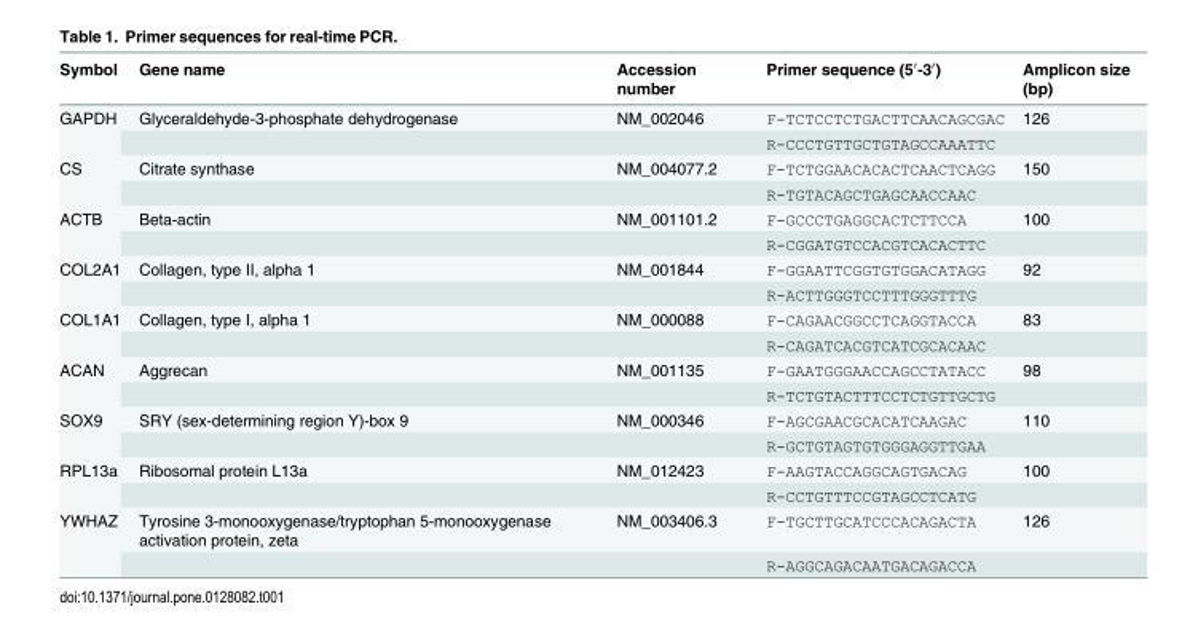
<table><thead><tr><td>Symbol</td><td>Gene name</td><td>Accession number</td><td>Primer sequence (5′-3′)</td><td>Amplicon size (bp)</td></tr></thead><tbody><tr><td rowspan="2">GAPDH</td><td>Glyceraldehyde-3-phosphate dehydrogenase</td><td>NM_002046</td><td>F-TCTCCTCTGACTTCAACAGCGAC</td><td>126</td></tr><tr><td></td><td></td><td>R-CCCTGTTGCTGTAGCCAAATTC</td><td></td></tr><tr><td rowspan="2">CS</td><td>Citrate synthase</td><td>NM_004077.2</td><td>F-TCTGGAACACACTCAACTCAGG</td><td>150</td></tr><tr><td></td><td></td><td>R-TGTACAGCTGAGCAACCAAC</td><td></td></tr><tr><td rowspan="2">ACTB</td><td>Beta-actin</td><td>NM_001101.2</td><td>F-GCCCTGAGGCACTCTTCCA</td><td>100</td></tr><tr><td></td><td></td><td>R-CGGATGTCCACGTCACACTTC</td><td></td></tr><tr><td rowspan="2">COL2A1</td><td>Collagen, type II, alpha 1</td><td>NM_001844</td><td>F-GGAATTCGGTGTGGACATAGG</td><td>92</td></tr><tr><td></td><td></td><td>R-ACTTGGGTCCTTTGGGTTTG</td><td></td></tr><tr><td rowspan="2">COL1A1</td><td>Collagen, type I, alpha 1</td><td>NM_000088</td><td>F-CAGAACGGCCTCAGGTACCA</td><td>83</td></tr><tr><td></td><td></td><td>R-CAGATCACGTCATCGCACAAC</td><td></td></tr><tr><td rowspan="2">ACAN</td><td>Aggrecan</td><td>NM_001135</td><td>F-GAATGGGAACCAGCCTATACC</td><td>98</td></tr><tr><td></td><td></td><td>R-TCTGTACTTTCCTCTGTTGCTG</td><td></td></tr><tr><td rowspan="2">SOX9</td><td>SRY (sex-determining region Y)-box 9</td><td>NM_000346</td><td>F-AGCGAACGCACATCAAGAC</td><td>110</td></tr><tr><td></td><td></td><td>R-GCTGTAGTGTGGGAGGTTGAA</td><td></td></tr><tr><td rowspan="2">RPL13a</td><td>Ribosomal protein L13a</td><td>NM_012423</td><td>F-AAGTACCAGGCAGTGACAG</td><td>100</td></tr><tr><td></td><td></td><td>R-CCTGTTTCCGTAGCCTCATG</td><td></td></tr><tr><td rowspan="2">YWHAZ</td><td>Tyrosine 3-monooxygenase/tryptophan 5-monooxygenase activation protein, zeta</td><td>NM_003406.3</td><td>F-TGCTTGCATCCCACAGACTA</td><td>126</td></tr><tr><td></td><td></td><td>R-AGGCAGACAATGACAGACCA</td><td></td></tr></tbody></table>